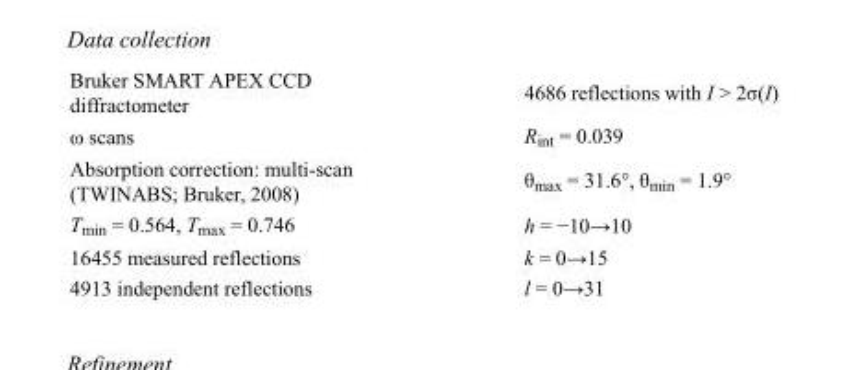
<table><tbody><tr><td>Bruker SMART APEX CCD diffractometer</td><td>4686 reflections with I &gt; 2σ(I)</td></tr><tr><td>ω scans</td><td>R<sub>int</sub> = 0.039</td></tr><tr><td>Absorption correction: multi-scan (TWINABS; Bruker, 2008)</td><td>θ<sub>max</sub> = 31.6°, θ<sub>min</sub> = 1.9°</td></tr><tr><td>T<sub>min</sub> = 0.564, T<sub>max</sub> = 0.746</td><td>h = −10→10</td></tr><tr><td>16455 measured reflections</td><td>k = 0→15</td></tr><tr><td>4913 independent reflections</td><td>l = 0→31</td></tr></tbody></table>